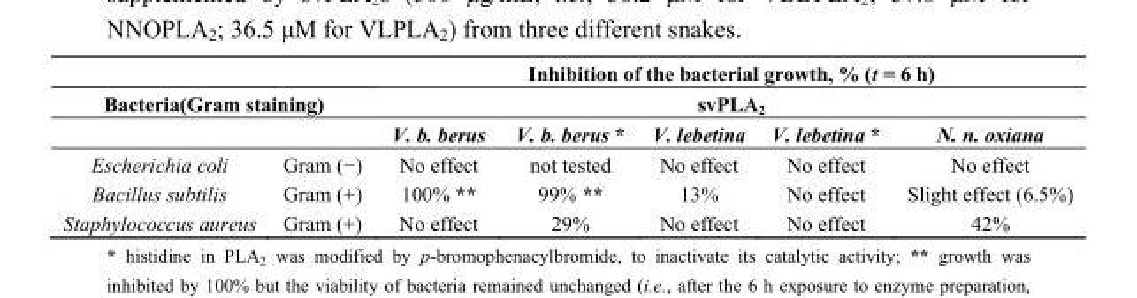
<table><thead><tr><td></td><td></td><td rowspan="2" colspan="5">Inhibition of the bacterial growth, % (t = 6 h) svPLA<sub>2</sub></td></tr><tr><td colspan="2">Bacteria(Gram staining)</td></tr><tr><td></td><td></td><td>V. b. berus</td><td>V. b. berus *</td><td>V. lebetina</td><td>V. lebetina *</td><td>N. n. oxiana</td></tr></thead><tbody><tr><td>Escherichia coli</td><td>Gram (−)</td><td>No effect</td><td>not tested</td><td>No effect</td><td>No effect</td><td>No effect</td></tr><tr><td>Bacillus subtilis</td><td>Gram (+)</td><td>100% **</td><td>99% **</td><td>13%</td><td>No effect</td><td>Slight effect (6.5%)</td></tr><tr><td>Staphylococcus aureus</td><td>Gram (+)</td><td>No effect</td><td>29%</td><td>No effect</td><td>No effect</td><td>42%</td></tr></tbody></table>